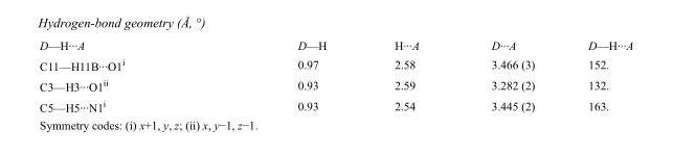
<table><tbody><tr><td>D—H···A</td><td>D—H</td><td>H···A</td><td>D···A</td><td>D—H···A</td></tr><tr><td>C11—H11B···O1<sup>i</sup></td><td>0.97</td><td>2.58</td><td>3.466 (3)</td><td>152.</td></tr><tr><td>C3—H3···O1<sup>ii</sup></td><td>0.93</td><td>2.59</td><td>3.282 (2)</td><td>132.</td></tr><tr><td>C5—H5···N1<sup>i</sup></td><td>0.93</td><td>2.54</td><td>3.445 (2)</td><td>163.</td></tr></tbody></table>